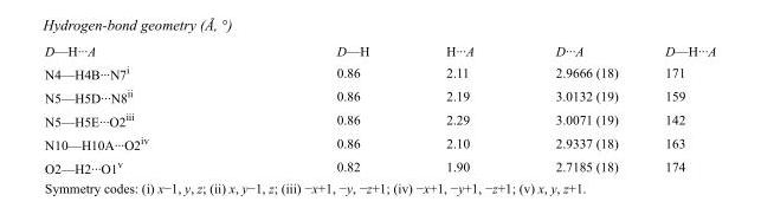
<table><tbody><tr><td>D—H···A</td><td>D—H</td><td>H···A</td><td>D···A</td><td>D—H···A</td></tr><tr><td>N4—H4B···N7<sup>i</sup></td><td>0.86</td><td>2.11</td><td>2.9666 (18)</td><td>171</td></tr><tr><td>N5—H5D···N8<sup>ii</sup></td><td>0.86</td><td>2.19</td><td>3.0132 (19)</td><td>159</td></tr><tr><td>N5—H5E···O2<sup>iii</sup></td><td>0.86</td><td>2.29</td><td>3.0071 (19)</td><td>142</td></tr><tr><td>N10—H10A···O2<sup>iv</sup></td><td>0.86</td><td>2.10</td><td>2.9337 (18)</td><td>163</td></tr><tr><td>O2—H2···O1<sup>v</sup></td><td>0.82</td><td>1.90</td><td>2.7185 (18)</td><td>174</td></tr></tbody></table>